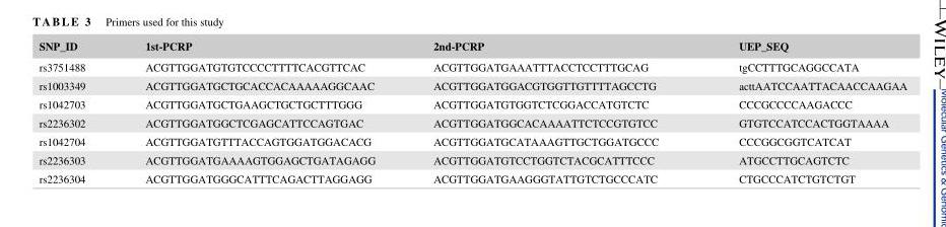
<table><thead><tr><td>SNP_ID</td><td>1st‐PCRP</td><td>2nd‐PCRP</td><td>UEP_SEQ</td></tr></thead><tbody><tr><td>rs3751488</td><td>ACGTTGGATGTGTCCCCTTTTCACGTTCAC</td><td>ACGTTGGATGAAATTTACCTCCTTTGCAG</td><td>tgCCTTTGCAGGCCATA</td></tr><tr><td>rs1003349</td><td>ACGTTGGATGCTGCACCACAAAAAGGCAAC</td><td>ACGTTGGATGGACGTGGTTGTTTTAGCCTG</td><td>acttAATCCAATTACAACCAAGAA</td></tr><tr><td>rs1042703</td><td>ACGTTGGATGCTGAAGCTGCTGCTTTGGG</td><td>ACGTTGGATGTGGTCTCGGACCATGTCTC</td><td>CCCGCCCCAAGACCC</td></tr><tr><td>rs2236302</td><td>ACGTTGGATGGCTCGAGCATTCCAGTGAC</td><td>ACGTTGGATGGCACAAAATTCTCCGTGTCC</td><td>GTGTCCATCCACTGGTAAAA</td></tr><tr><td>rs1042704</td><td>ACGTTGGATGTTTACCAGTGGATGGACACG</td><td>ACGTTGGATGCATAAAGTTGCTGGATGCCC</td><td>CCCGGCGGTCATCAT</td></tr><tr><td>rs2236303</td><td>ACGTTGGATGAAAAGTGGAGCTGATAGAGG</td><td>ACGTTGGATGTCCTGGTCTACGCATTTCCC</td><td>ATGCCTTGCAGTCTC</td></tr><tr><td>rs2236304</td><td>ACGTTGGATGGGCATTTCAGACTTAGGAGG</td><td>ACGTTGGATGAAGGGTATTGTCTGCCCATC</td><td>CTGCCCATCTGTCTGT</td></tr></tbody></table>